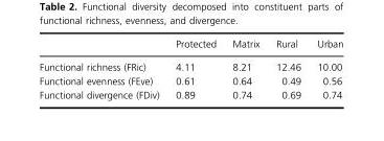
<table><thead><tr><td></td><td>Protected</td><td>Matrix</td><td>Rural</td><td>Urban</td></tr></thead><tbody><tr><td>Functional richness (FRic)</td><td>4.11</td><td>8.21</td><td>12.46</td><td>10.00</td></tr><tr><td>Functional evenness (FEve)</td><td>0.61</td><td>0.64</td><td>0.49</td><td>0.56</td></tr><tr><td>Functional divergence (FDiv)</td><td>0.89</td><td>0.74</td><td>0.69</td><td>0.74</td></tr></tbody></table>